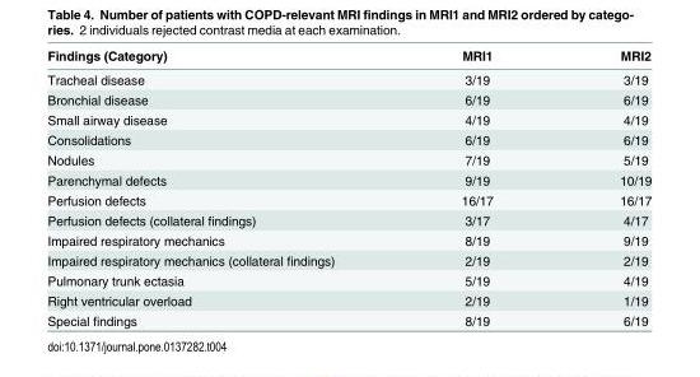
<table><thead><tr><td>Findings (Category)</td><td>MRI1</td><td>MRI2</td></tr></thead><tbody><tr><td>Tracheal disease</td><td>3/19</td><td>3/19</td></tr><tr><td>Bronchial disease</td><td>6/19</td><td>6/19</td></tr><tr><td>Small airway disease</td><td>4/19</td><td>4/19</td></tr><tr><td>Consolidations</td><td>6/19</td><td>6/19</td></tr><tr><td>Nodules</td><td>7/19</td><td>5/19</td></tr><tr><td>Parenchymal defects</td><td>9/19</td><td>10/19</td></tr><tr><td>Perfusion defects</td><td>16/17</td><td>16/17</td></tr><tr><td>Perfusion defects (collateral findings)</td><td>3/17</td><td>4/17</td></tr><tr><td>Impaired respiratory mechanics</td><td>8/19</td><td>9/19</td></tr><tr><td>Impaired respiratory mechanics (collateral findings)</td><td>2/19</td><td>2/19</td></tr><tr><td>Pulmonary trunk ectasia</td><td>5/19</td><td>4/19</td></tr><tr><td>Right ventricular overload</td><td>2/19</td><td>1/19</td></tr><tr><td>Special findings</td><td>8/19</td><td>6/19</td></tr></tbody></table>